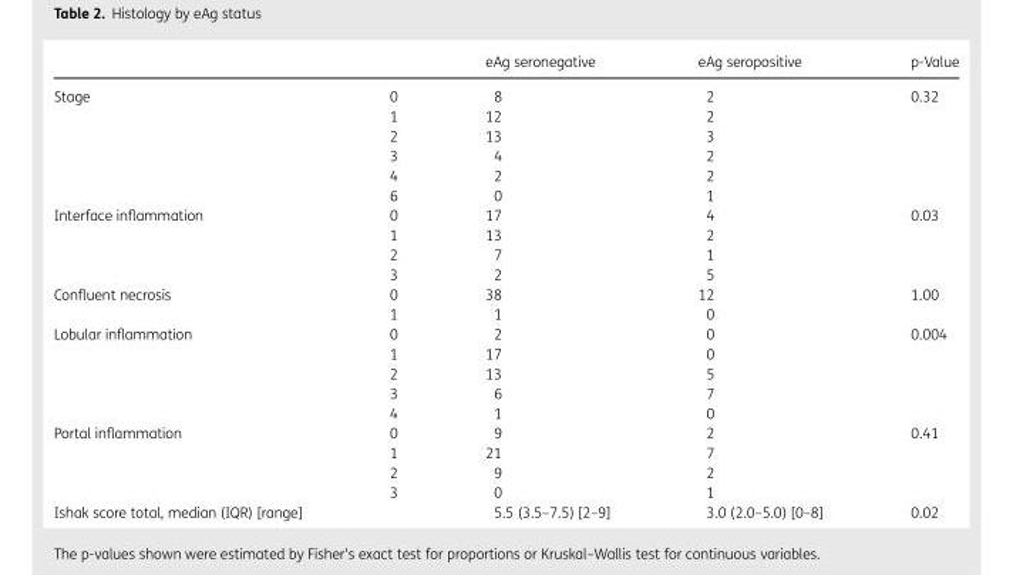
<table><thead><tr><td></td><td></td><td>eAg seronegative</td><td>eAg seropositive</td><td>p-Value</td></tr></thead><tbody><tr><td rowspan="6">Stage</td><td>0</td><td>8</td><td>2</td><td rowspan="6">0.32</td></tr><tr><td>1</td><td>12</td><td>2</td></tr><tr><td>2</td><td>13</td><td>3</td></tr><tr><td>3</td><td>4</td><td>2</td></tr><tr><td>4</td><td>2</td><td>2</td></tr><tr><td>6</td><td>0</td><td>1</td></tr><tr><td rowspan="4">Interface inflammation</td><td>0</td><td>17</td><td>4</td><td rowspan="4">0.03</td></tr><tr><td>1</td><td>13</td><td>2</td></tr><tr><td>2</td><td>7</td><td>1</td></tr><tr><td>3</td><td>2</td><td>5</td></tr><tr><td rowspan="2">Confluent necrosis</td><td>0</td><td>38</td><td>12</td><td rowspan="2">1.00</td></tr><tr><td>1</td><td>1</td><td>0</td></tr><tr><td rowspan="5">Lobular inflammation</td><td>0</td><td>2</td><td>0</td><td rowspan="5">0.004</td></tr><tr><td>1</td><td>17</td><td>0</td></tr><tr><td>2</td><td>13</td><td>5</td></tr><tr><td>3</td><td>6</td><td>7</td></tr><tr><td>4</td><td>1</td><td>0</td></tr><tr><td rowspan="4">Portal inflammation</td><td>0</td><td>9</td><td>2</td><td rowspan="4">0.41</td></tr><tr><td>1</td><td>21</td><td>7</td></tr><tr><td>2</td><td>9</td><td>2</td></tr><tr><td>3</td><td>0</td><td>1</td></tr><tr><td>Ishak score total, median (IQR) [range]</td><td></td><td>5.5 (3.5–7.5) [2–9]</td><td>3.0 (2.0–5.0) [0–8]</td><td>0.02</td></tr></tbody></table>